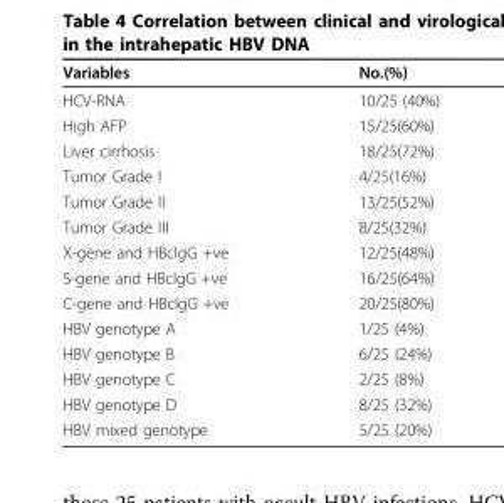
<table><thead><tr><td>Variables</td><td>No.(%)</td></tr></thead><tbody><tr><td>HCV-RNA</td><td>10/25 (40%)</td></tr><tr><td>High AFP</td><td>15/25(60%)</td></tr><tr><td>Liver cirrhosis</td><td>18/25(72%)</td></tr><tr><td>Tumor Grade I</td><td>4/25(16%)</td></tr><tr><td>Tumor Grade II</td><td>13/25(52%)</td></tr><tr><td>Tumor Grade III</td><td>8/25(32%)</td></tr><tr><td>X-gene and HBcIgG +ve</td><td>12/25(48%)</td></tr><tr><td>S-gene and HBcIgG +ve</td><td>16/25(64%)</td></tr><tr><td>C-gene and HBcIgG +ve</td><td>20/25(80%)</td></tr><tr><td>HBV genotype A</td><td>1/25 (4%)</td></tr><tr><td>HBV genotype B</td><td>6/25 (24%)</td></tr><tr><td>HBV genotype C</td><td>2/25 (8%)</td></tr><tr><td>HBV genotype D</td><td>8/25 (32%)</td></tr><tr><td>HBV mixed genotype</td><td>5/25 (20%)</td></tr></tbody></table>